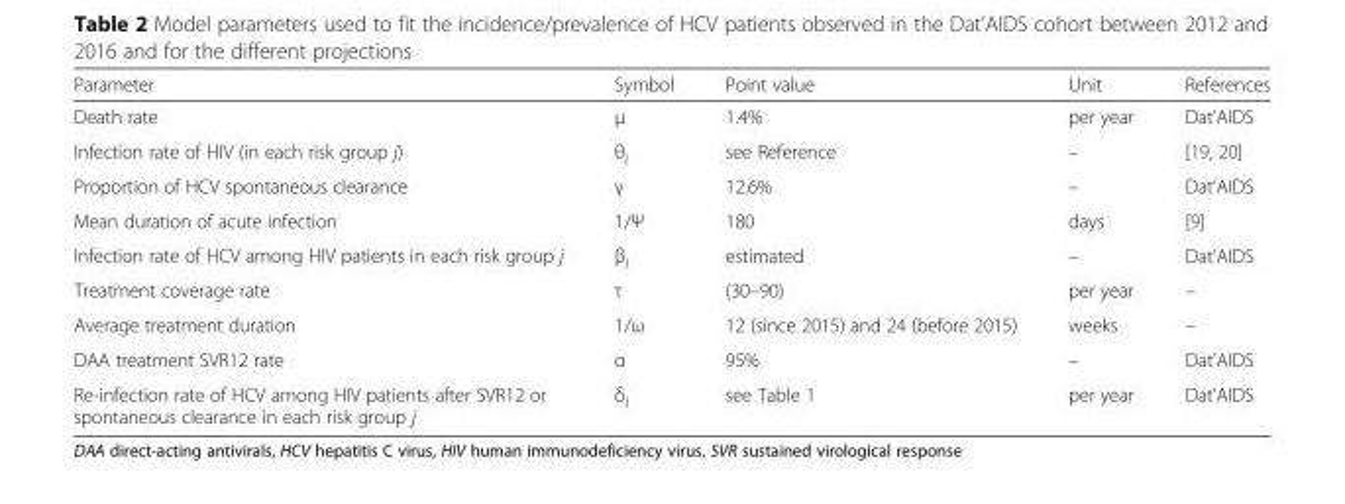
<table><thead><tr><td>Parameter</td><td>Symbol</td><td>Point value</td><td>Unit</td><td>References</td></tr></thead><tbody><tr><td>Death rate</td><td>μ</td><td>1.4%</td><td>per year</td><td>Dat’AIDS</td></tr><tr><td>Infection rate of HIV (in each risk group j)</td><td>θ<sub>j</sub></td><td>see Reference</td><td>–</td><td>[19, 20]</td></tr><tr><td>Proportion of HCV spontaneous clearance</td><td>γ</td><td>12.6%</td><td>–</td><td>Dat’AIDS</td></tr><tr><td>Mean duration of acute infection</td><td>1/Ψ</td><td>180</td><td>days</td><td>[9]</td></tr><tr><td>Infection rate of HCV among HIV patients in each risk group j</td><td>β<sub>j</sub></td><td>estimated</td><td>–</td><td>Dat’AIDS</td></tr><tr><td>Treatment coverage rate</td><td>τ</td><td>(30–90)</td><td>per year</td><td>–</td></tr><tr><td>Average treatment duration</td><td>1/ω</td><td>12 (since 2015) and 24 (before 2015)</td><td>weeks</td><td>–</td></tr><tr><td>DAA treatment SVR12 rate</td><td>α</td><td>95%</td><td>–</td><td>Dat’AIDS</td></tr><tr><td>Re-infection rate of HCV among HIV patients after SVR12 or spontaneous clearance in each risk group j</td><td>δ<sub>j</sub></td><td>see Table 1</td><td>per year</td><td>Dat’AIDS</td></tr></tbody></table>